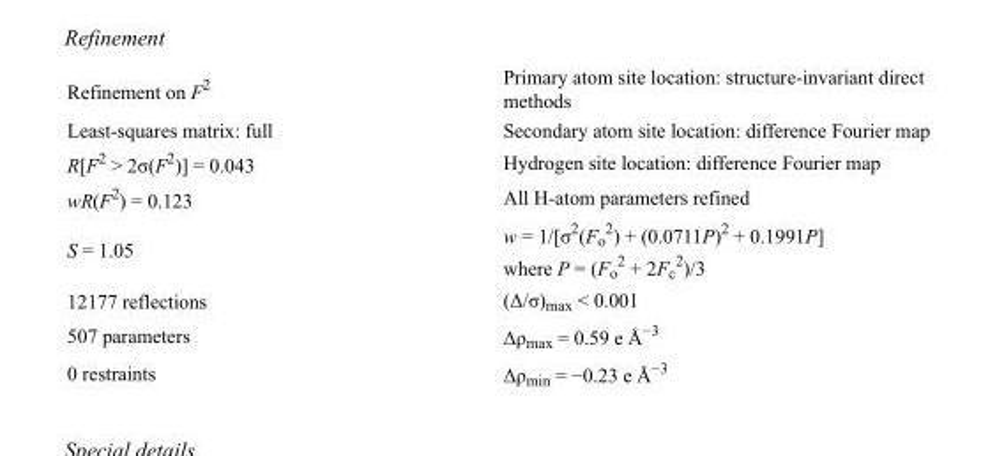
<table><tbody><tr><td>Refinement on F<sup>2</sup></td><td>Primary atom site location: structure-invariant direct methods</td></tr><tr><td>Least-squares matrix: full</td><td>Secondary atom site location: difference Fourier map</td></tr><tr><td>R[F<sup>2</sup> &gt; 2σ(F<sup>2</sup>)] = 0.043</td><td>Hydrogen site location: difference Fourier map</td></tr><tr><td>wR(F<sup>2</sup>) = 0.123</td><td>All H-atom parameters refined</td></tr><tr><td>S = 1.05</td><td>w = 1/[σ<sup>2</sup>(F<sub>o</sub> <sup>2</sup>) + (0.0711P)<sup>2</sup> + 0.1991P] where P = (F<sub>o</sub> <sup>2</sup> + 2F<sub>c</sub> <sup>2</sup>)/3</td></tr><tr><td>12177 reflections</td><td>(Δ/σ)<sub>max</sub> &lt; 0.001</td></tr><tr><td>507 parameters</td><td>Δρ<sub>max</sub> = 0.59 e Å<sup>−3</sup></td></tr><tr><td>0 restraints</td><td>Δρ<sub>min</sub> = −0.23 e Å<sup>−3</sup></td></tr></tbody></table>